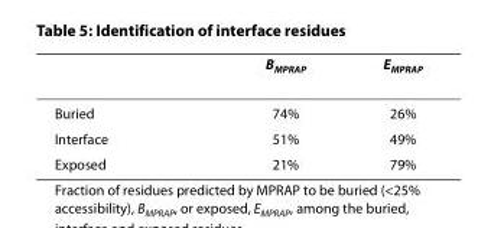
<table><thead><tr><td></td><td>B<sub>MPRAP</sub></td><td>E<sub>MPRAP</sub></td></tr></thead><tbody><tr><td>Buried</td><td>74%</td><td>26%</td></tr><tr><td>Interface</td><td>51%</td><td>49%</td></tr><tr><td>Exposed</td><td>21%</td><td>79%</td></tr></tbody></table>